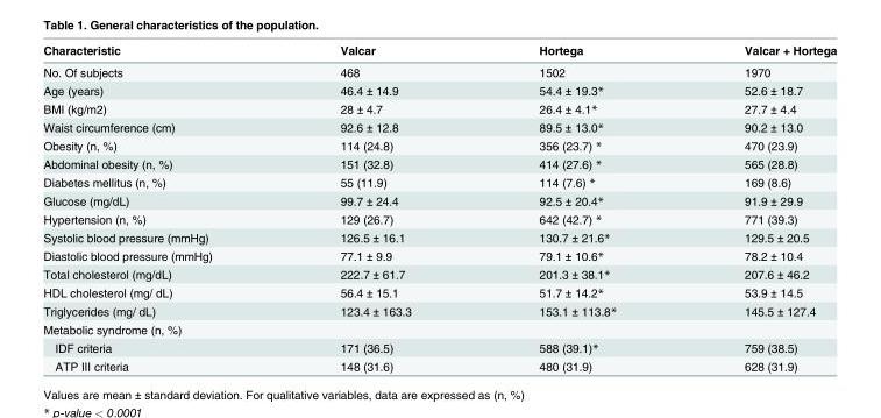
<table><thead><tr><td>Characteristic</td><td>Valcar</td><td>Hortega</td><td>Valcar + Hortega</td></tr></thead><tbody><tr><td>No. Of subjects</td><td>468</td><td>1502</td><td>1970</td></tr><tr><td>Age (years)</td><td>46.4 ± 14.9</td><td>54.4 ± 19.3*</td><td>52.6 ± 18.7</td></tr><tr><td>BMI (kg/m2)</td><td>28 ± 4.7</td><td>26.4 ± 4.1*</td><td>27.7 ± 4.4</td></tr><tr><td>Waist circumference (cm)</td><td>92.6 ± 12.8</td><td>89.5 ± 13.0*</td><td>90.2 ± 13.0</td></tr><tr><td>Obesity (n, %)</td><td>114 (24.8)</td><td>356 (23.7) *</td><td>470 (23.9)</td></tr><tr><td>Abdominal obesity (n, %)</td><td>151 (32.8)</td><td>414 (27.6) *</td><td>565 (28.8)</td></tr><tr><td>Diabetes mellitus (n, %)</td><td>55 (11.9)</td><td>114 (7.6) *</td><td>169 (8.6)</td></tr><tr><td>Glucose (mg/dL)</td><td>99.7 ± 24.4</td><td>92.5 ± 20.4*</td><td>91.9 ± 29.9</td></tr><tr><td>Hypertension (n, %)</td><td>129 (26.7)</td><td>642 (42.7) *</td><td>771 (39.3)</td></tr><tr><td>Systolic blood pressure (mmHg)</td><td>126.5 ± 16.1</td><td>130.7 ± 21.6*</td><td>129.5 ± 20.5</td></tr><tr><td>Diastolic blood pressure (mmHg)</td><td>77.1 ± 9.9</td><td>79.1 ± 10.6*</td><td>78.2 ± 10.4</td></tr><tr><td>Total cholesterol (mg/dL)</td><td>222.7 ± 61.7</td><td>201.3 ± 38.1*</td><td>207.6 ± 46.2</td></tr><tr><td>HDL cholesterol (mg/ dL)</td><td>56.4 ± 15.1</td><td>51.7 ± 14.2*</td><td>53.9 ± 14.5</td></tr><tr><td>Triglycerides (mg/ dL)</td><td>123.4 ± 163.3</td><td>153.1 ± 113.8*</td><td>145.5 ± 127.4</td></tr><tr><td colspan="4">Metabolic syndrome (n, %)</td></tr><tr><td>IDF criteria</td><td>171 (36.5)</td><td>588 (39.1)*</td><td>759 (38.5)</td></tr><tr><td>ATP III criteria</td><td>148 (31.6)</td><td>480 (31.9)</td><td>628 (31.9)</td></tr></tbody></table>